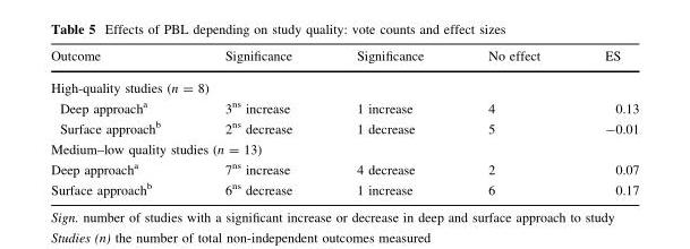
<table><thead><tr><td>Outcome</td><td>Significance</td><td>Significance</td><td>No effect</td><td>ES</td></tr></thead><tbody><tr><td colspan="5">High-quality studies (n = 8)</td></tr><tr><td>Deep approach<sup>a</sup></td><td>3<sup>ns</sup> increase</td><td>1 increase</td><td>4</td><td>0.13</td></tr><tr><td>Surface approach<sup>b</sup></td><td>2<sup>ns</sup> decrease</td><td>1 decrease</td><td>5</td><td>-0.01</td></tr><tr><td colspan="5">Medium–low quality studies (n = 13)</td></tr><tr><td>Deep approach<sup>a</sup></td><td>7<sup>ns</sup> increase</td><td>4 decrease</td><td>2</td><td>0.07</td></tr><tr><td>Surface approach<sup>b</sup></td><td>6<sup>ns</sup> decrease</td><td>1 increase</td><td>6</td><td>0.17</td></tr></tbody></table>